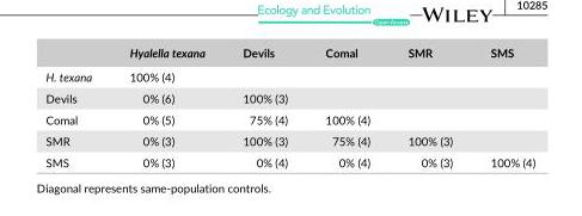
<table><thead><tr><td></td><td>Hyalella texana</td><td>Devils</td><td>Comal</td><td>SMR</td><td>SMS</td></tr></thead><tbody><tr><td>H. texana</td><td>100% (4)</td><td></td><td></td><td></td><td></td></tr><tr><td>Devils</td><td>0% (6)</td><td>100% (3)</td><td></td><td></td><td></td></tr><tr><td>Comal</td><td>0% (5)</td><td>75% (4)</td><td>100% (4)</td><td></td><td></td></tr><tr><td>SMR</td><td>0% (3)</td><td>100% (3)</td><td>75% (4)</td><td>100% (3)</td><td></td></tr><tr><td>SMS</td><td>0% (3)</td><td>0% (4)</td><td>0% (4)</td><td>0% (3)</td><td>100% (4)</td></tr></tbody></table>